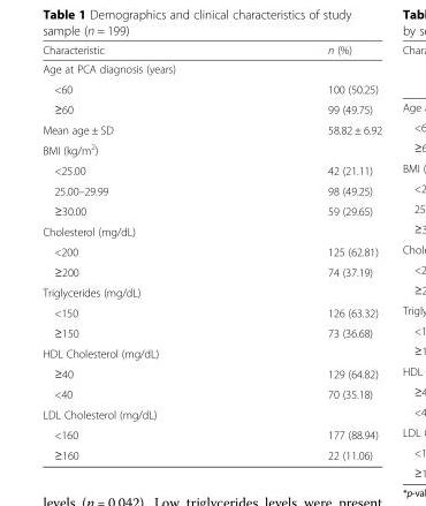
<table><thead><tr><td>Characteristic</td><td>n (%)</td></tr></thead><tbody><tr><td colspan="2">Age at PCA diagnosis (years)</td></tr><tr><td>&lt;60</td><td>100 (50.25)</td></tr><tr><td>≥60</td><td>99 (49.75)</td></tr><tr><td>Mean age ± SD</td><td>58.82 ± 6.92</td></tr><tr><td colspan="2">BMI (kg/m<sup>2</sup>)</td></tr><tr><td>&lt;25.00</td><td>42 (21.11)</td></tr><tr><td>25.00–29.99</td><td>98 (49.25)</td></tr><tr><td>≥30.00</td><td>59 (29.65)</td></tr><tr><td colspan="2">Cholesterol (mg/dL)</td></tr><tr><td>&lt;200</td><td>125 (62.81)</td></tr><tr><td>≥200</td><td>74 (37.19)</td></tr><tr><td colspan="2">Triglycerides (mg/dL)</td></tr><tr><td>&lt;150</td><td>126 (63.32)</td></tr><tr><td>≥150</td><td>73 (36.68)</td></tr><tr><td colspan="2">HDL Cholesterol (mg/dL)</td></tr><tr><td>≥40</td><td>129 (64.82)</td></tr><tr><td>&lt;40</td><td>70 (35.18)</td></tr><tr><td colspan="2">LDL Cholesterol (mg/dL)</td></tr><tr><td>&lt;160</td><td>177 (88.94)</td></tr><tr><td>≥160</td><td>22 (11.06)</td></tr></tbody></table>